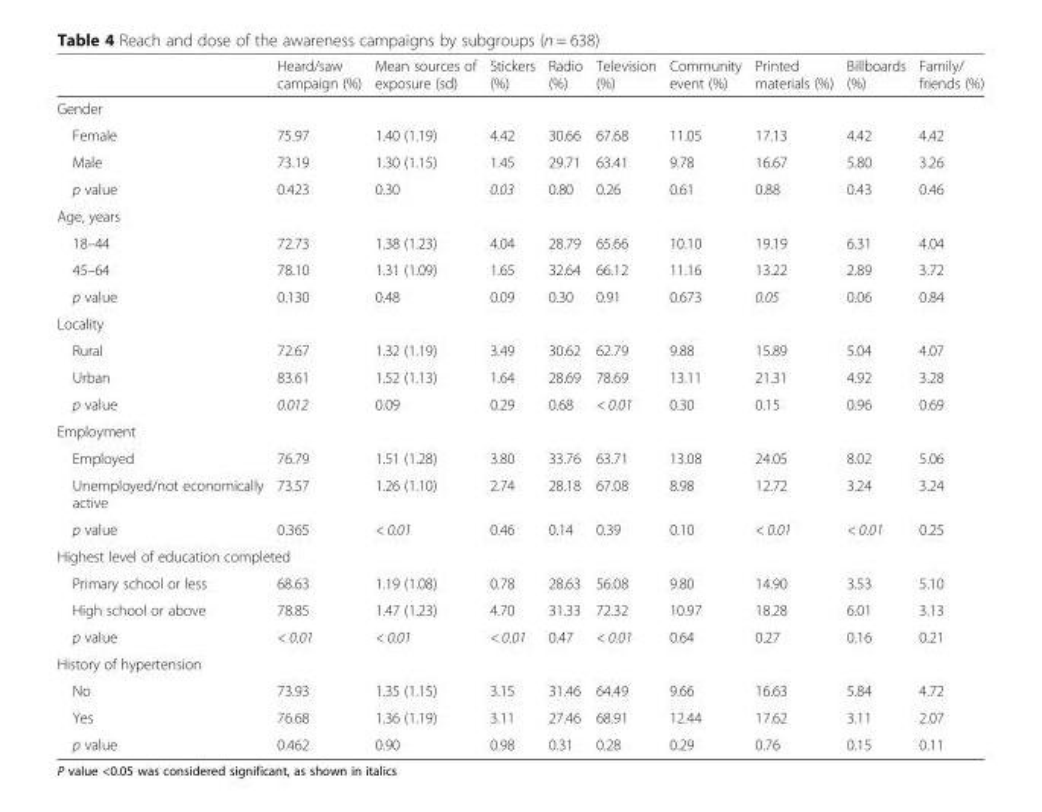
<table><thead><tr><td></td><td>Heard/saw campaign (%)</td><td>Mean sources of exposure (sd)</td><td>Stickers (%)</td><td>Radio (%)</td><td>Television (%)</td><td>Community event (%)</td><td>Printed materials (%)</td><td>Billboards (%)</td><td>Family/ friends (%)</td></tr></thead><tbody><tr><td colspan="10">Gender</td></tr><tr><td>Female</td><td>75.97</td><td>1.40 (1.19)</td><td>4.42</td><td>30.66</td><td>67.68</td><td>11.05</td><td>17.13</td><td>4.42</td><td>4.42</td></tr><tr><td>Male</td><td>73.19</td><td>1.30 (1.15)</td><td>1.45</td><td>29.71</td><td>63.41</td><td>9.78</td><td>16.67</td><td>5.80</td><td>3.26</td></tr><tr><td>p value</td><td>0.423</td><td>0.30</td><td>0.03</td><td>0.80</td><td>0.26</td><td>0.61</td><td>0.88</td><td>0.43</td><td>0.46</td></tr><tr><td colspan="10">Age, years</td></tr><tr><td>18–44</td><td>72.73</td><td>1.38 (1.23)</td><td>4.04</td><td>28.79</td><td>65.66</td><td>10.10</td><td>19.19</td><td>6.31</td><td>4.04</td></tr><tr><td>45–64</td><td>78.10</td><td>1.31 (1.09)</td><td>1.65</td><td>32.64</td><td>66.12</td><td>11.16</td><td>13.22</td><td>2.89</td><td>3.72</td></tr><tr><td>p value</td><td>0.130</td><td>0.48</td><td>0.09</td><td>0.30</td><td>0.91</td><td>0.673</td><td>0.05</td><td>0.06</td><td>0.84</td></tr><tr><td colspan="10">Locality</td></tr><tr><td>Rural</td><td>72.67</td><td>1.32 (1.19)</td><td>3.49</td><td>30.62</td><td>62.79</td><td>9.88</td><td>15.89</td><td>5.04</td><td>4.07</td></tr><tr><td>Urban</td><td>83.61</td><td>1.52 (1.13)</td><td>1.64</td><td>28.69</td><td>78.69</td><td>13.11</td><td>21.31</td><td>4.92</td><td>3.28</td></tr><tr><td>p value</td><td>0.012</td><td>0.09</td><td>0.29</td><td>0.68</td><td>&lt; 0.01</td><td>0.30</td><td>0.15</td><td>0.96</td><td>0.69</td></tr><tr><td colspan="10">Employment</td></tr><tr><td>Employed</td><td>76.79</td><td>1.51 (1.28)</td><td>3.80</td><td>33.76</td><td>63.71</td><td>13.08</td><td>24.05</td><td>8.02</td><td>5.06</td></tr><tr><td>Unemployed/not economically active</td><td>73.57</td><td>1.26 (1.10)</td><td>2.74</td><td>28.18</td><td>67.08</td><td>8.98</td><td>12.72</td><td>3.24</td><td>3.24</td></tr><tr><td>p value</td><td>0.365</td><td>&lt; 0.01</td><td>0.46</td><td>0.14</td><td>0.39</td><td>0.10</td><td>&lt; 0.01</td><td>&lt; 0.01</td><td>0.25</td></tr><tr><td colspan="10">Highest level of education completed</td></tr><tr><td>Primary school or less</td><td>68.63</td><td>1.19 (1.08)</td><td>0.78</td><td>28.63</td><td>56.08</td><td>9.80</td><td>14.90</td><td>3.53</td><td>5.10</td></tr><tr><td>High school or above</td><td>78.85</td><td>1.47 (1.23)</td><td>4.70</td><td>31.33</td><td>72.32</td><td>10.97</td><td>18.28</td><td>6.01</td><td>3.13</td></tr><tr><td>p value</td><td>&lt; 0.01</td><td>&lt; 0.01</td><td>&lt; 0.01</td><td>0.47</td><td>&lt; 0.01</td><td>0.64</td><td>0.27</td><td>0.16</td><td>0.21</td></tr><tr><td colspan="10">History of hypertension</td></tr><tr><td>No</td><td>73.93</td><td>1.35 (1.15)</td><td>3.15</td><td>31.46</td><td>64.49</td><td>9.66</td><td>16.63</td><td>5.84</td><td>4.72</td></tr><tr><td>Yes</td><td>76.68</td><td>1.36 (1.19)</td><td>3.11</td><td>27.46</td><td>68.91</td><td>12.44</td><td>17.62</td><td>3.11</td><td>2.07</td></tr><tr><td>p value</td><td>0.462</td><td>0.90</td><td>0.98</td><td>0.31</td><td>0.28</td><td>0.29</td><td>0.76</td><td>0.15</td><td>0.11</td></tr></tbody></table>